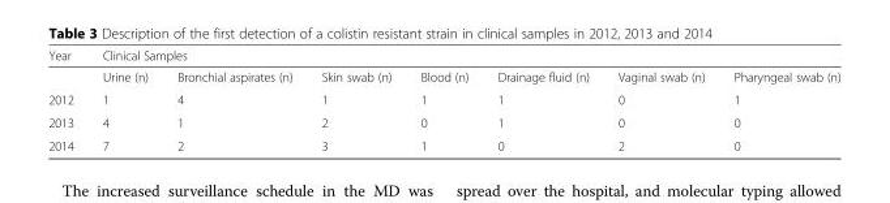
<table><thead><tr><td rowspan="2">Year</td><td colspan="7">Clinical Samples</td></tr><tr><td>Urine (n)</td><td>Bronchial aspirates (n)</td><td>Skin swab (n)</td><td>Blood (n)</td><td>Drainage fluid (n)</td><td>Vaginal swab (n)</td><td>Pharyngeal swab (n)</td></tr></thead><tbody><tr><td>2012</td><td>1</td><td>4</td><td>1</td><td>1</td><td>1</td><td>0</td><td>1</td></tr><tr><td>2013</td><td>4</td><td>1</td><td>2</td><td>0</td><td>1</td><td>0</td><td>0</td></tr><tr><td>2014</td><td>7</td><td>2</td><td>3</td><td>1</td><td>0</td><td>2</td><td>0</td></tr></tbody></table>